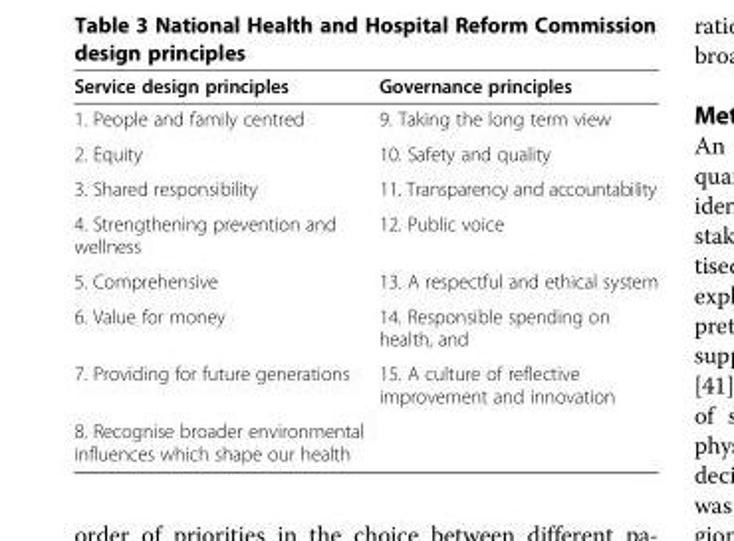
<table><thead><tr><td>Service design principles</td><td>Governance principles</td></tr></thead><tbody><tr><td>1. People and family centred</td><td>9. Taking the long term view</td></tr><tr><td>2. Equity</td><td>10. Safety and quality</td></tr><tr><td>3. Shared responsibility</td><td>11. Transparency and accountability</td></tr><tr><td>4. Strengthening prevention and wellness</td><td>12. Public voice</td></tr><tr><td>5. Comprehensive</td><td>13. A respectful and ethical system</td></tr><tr><td>6. Value for money</td><td>14. Responsible spending on health, and</td></tr><tr><td>7. Providing for future generations</td><td>15. A culture of reflective improvement and innovation</td></tr><tr><td>8. Recognise broader environmental influences which shape our health</td><td></td></tr></tbody></table>